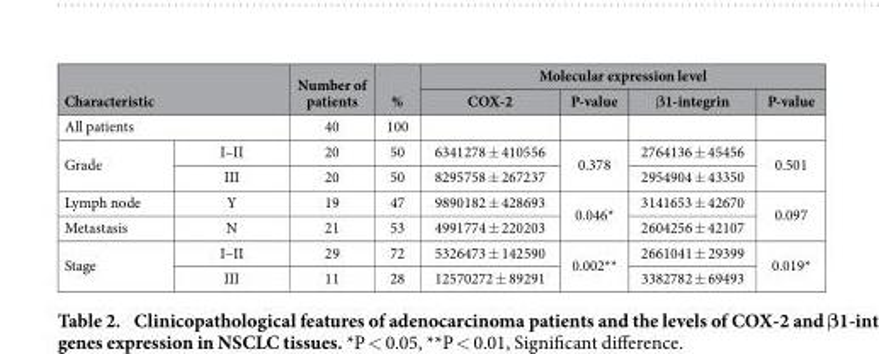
<table><thead><tr><td></td><td></td><td rowspan="2">Number of patients</td><td rowspan="2">%</td><td colspan="4">Molecular expression level</td></tr><tr><td colspan="2">Characteristic</td><td>COX-2</td><td>P-value</td><td>β1-integrin</td><td>P-value</td></tr></thead><tbody><tr><td colspan="2">All patients</td><td>40</td><td>100</td><td></td><td></td><td></td><td></td></tr><tr><td rowspan="2">Grade</td><td>I–II</td><td>20</td><td>50</td><td>6341278 ± 410556</td><td rowspan="2">0.378</td><td>2764136 ± 45456</td><td rowspan="2">0.501</td></tr><tr><td>III</td><td>20</td><td>50</td><td>8295758 ± 267237</td><td>2954904 ± 43350</td></tr><tr><td>Lymph node</td><td>Y</td><td>19</td><td>47</td><td>9890182 ± 428693</td><td rowspan="2">0.046*</td><td>3141653 ± 42670</td><td rowspan="2">0.097</td></tr><tr><td>Metastasis</td><td>N</td><td>21</td><td>53</td><td>4991774 ± 220203</td><td>2604256 ± 42107</td></tr><tr><td rowspan="2">Stage</td><td>I–II</td><td>29</td><td>72</td><td>5326473 ± 142590</td><td rowspan="2">0.002**</td><td>2661041 ± 29399</td><td rowspan="2">0.019*</td></tr><tr><td>III</td><td>11</td><td>28</td><td>12570272 ± 89291</td><td>3382782 ± 69493</td></tr></tbody></table>